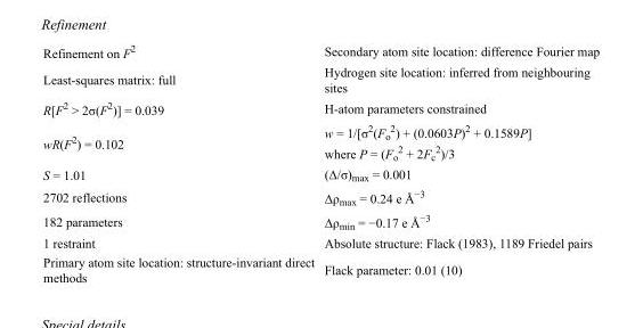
<table><tbody><tr><td>Refinement on F<sup>2</sup></td><td>Secondary atom site location: difference Fourier map</td></tr><tr><td>Least-squares matrix: full</td><td>Hydrogen site location: inferred from neighbouring sites</td></tr><tr><td>R[F<sup>2</sup> &gt; 2σ(F<sup>2</sup>)] = 0.039</td><td>H-atom parameters constrained</td></tr><tr><td>wR(F<sup>2</sup>) = 0.102</td><td>w = 1/[σ<sup>2</sup>(F<sub>o</sub> <sup>2</sup>) + (0.0603P)<sup>2</sup> + 0.1589P] where P = (F<sub>o</sub> <sup>2</sup> + 2F<sub>c</sub> <sup>2</sup>)/3</td></tr><tr><td>S = 1.01</td><td>(Δ/σ)<sub>max</sub> = 0.001</td></tr><tr><td>2702 reflections</td><td>Δρ<sub>max</sub> = 0.24 e Å<sup>−3</sup></td></tr><tr><td>182 parameters</td><td>Δρ<sub>min</sub> = −0.17 e Å<sup>−3</sup></td></tr><tr><td>1 restraint</td><td>Absolute structure: Flack (1983), 1189 Friedel pairs</td></tr><tr><td>Primary atom site location: structure-invariant direct methods</td><td>Flack parameter: 0.01 (10)</td></tr></tbody></table>